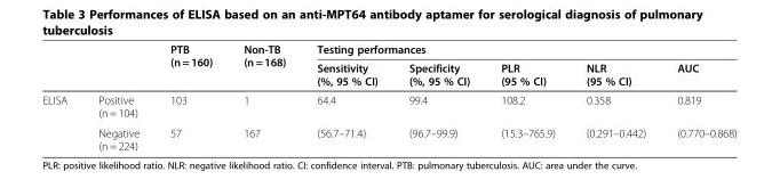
<table><thead><tr><td rowspan="2"></td><td rowspan="2"></td><td rowspan="2">PTB (n = 160)</td><td rowspan="2">Non-TB (n = 168)</td><td colspan="5">Testing performances</td></tr><tr><td>Sensitivity (%, 95 % CI)</td><td>Specificity (%, 95 % CI)</td><td>PLR (95 % CI)</td><td>NLR (95 % CI)</td><td>AUC</td></tr></thead><tbody><tr><td rowspan="2">ELISA</td><td>Positive (n = 104)</td><td>103</td><td>1</td><td>64.4</td><td>99.4</td><td>108.2</td><td>0.358</td><td>0.819</td></tr><tr><td>Negative (n = 224)</td><td>57</td><td>167</td><td>(56.7–71.4)</td><td>(96.7–99.9)</td><td>(15.3–765.9)</td><td>(0.291–0.442)</td><td>(0.770–0.868)</td></tr></tbody></table>